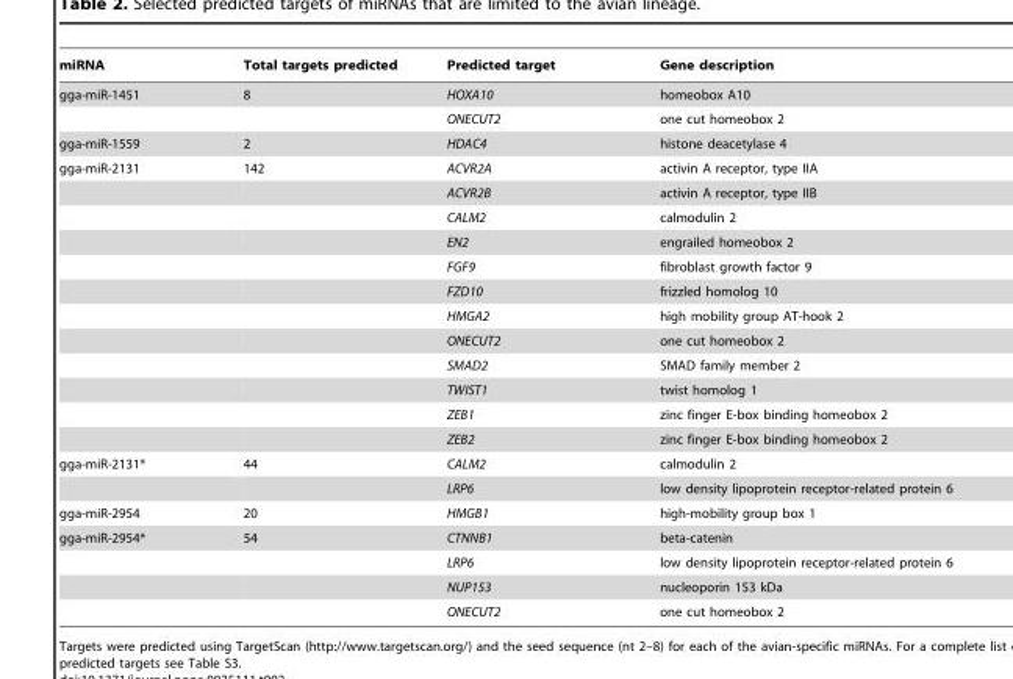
<table><thead><tr><td>miRNA</td><td>Total targets predicted</td><td>Predicted target</td><td>Gene description</td></tr></thead><tbody><tr><td rowspan="2">gga-miR-1451</td><td>8</td><td>HOXA10</td><td>homeobox A10</td></tr><tr><td></td><td>ONECUT2</td><td>one cut homeobox 2</td></tr><tr><td>gga-miR-1559</td><td>2</td><td>HDAC4</td><td>histone deacetylase 4</td></tr><tr><td rowspan="12">gga-miR-2131</td><td>142</td><td>ACVR2A</td><td>activin A receptor, type IIA</td></tr><tr><td></td><td>ACVR2B</td><td>activin A receptor, type IIB</td></tr><tr><td></td><td>CALM2</td><td>calmodulin 2</td></tr><tr><td></td><td>EN2</td><td>engrailed homeobox 2</td></tr><tr><td></td><td>FGF9</td><td>fibroblast growth factor 9</td></tr><tr><td></td><td>FZD10</td><td>frizzled homolog 10</td></tr><tr><td></td><td>HMGA2</td><td>high mobility group AT-hook 2</td></tr><tr><td></td><td>ONECUT2</td><td>one cut homeobox 2</td></tr><tr><td></td><td>SMAD2</td><td>SMAD family member 2</td></tr><tr><td></td><td>TWIST1</td><td>twist homolog 1</td></tr><tr><td></td><td>ZEB1</td><td>zinc finger E-box binding homeobox 2</td></tr><tr><td></td><td>ZEB2</td><td>zinc finger E-box binding homeobox 2</td></tr><tr><td rowspan="2">gga-miR-2131*</td><td>44</td><td>CALM2</td><td>calmodulin 2</td></tr><tr><td></td><td>LRP6</td><td>low density lipoprotein receptor-related protein 6</td></tr><tr><td>gga-miR-2954</td><td>20</td><td>HMGB1</td><td>high-mobility group box 1</td></tr><tr><td rowspan="4">gga-miR-2954*</td><td>54</td><td>CTNNB1</td><td>beta-catenin</td></tr><tr><td></td><td>LRP6</td><td>low density lipoprotein receptor-related protein 6</td></tr><tr><td></td><td>NUP153</td><td>nucleoporin 153 kDa</td></tr><tr><td></td><td>ONECUT2</td><td>one cut homeobox 2</td></tr></tbody></table>